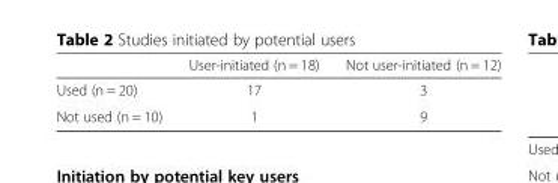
<table><thead><tr><td></td><td>User-initiated (n = 18)</td><td>Not user-initiated (n = 12)</td></tr></thead><tbody><tr><td>Used (n = 20)</td><td>17</td><td>3</td></tr><tr><td>Not used (n = 10)</td><td>1</td><td>9</td></tr></tbody></table>